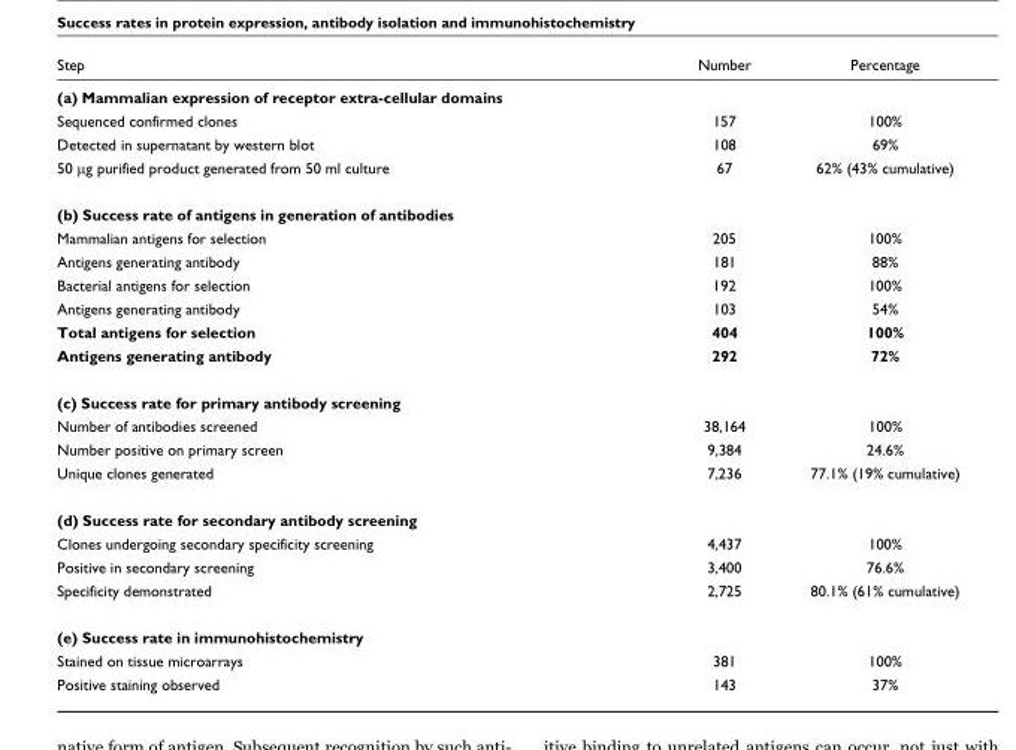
<table><thead><tr><td>Step</td><td>Number</td><td>Percentage</td></tr></thead><tbody><tr><td colspan="3">(a) Mammalian expression of receptor extra-cellular domains</td></tr><tr><td>Sequenced confirmed clones</td><td>157</td><td>100%</td></tr><tr><td>Detected in supernatant by western blot</td><td>108</td><td>69%</td></tr><tr><td>50 μg purified product generated from 50 ml culture</td><td>67</td><td>62% (43% cumulative)</td></tr><tr><td colspan="3">(b) Success rate of antigens in generation of antibodies</td></tr><tr><td>Mammalian antigens for selection</td><td>205</td><td>100%</td></tr><tr><td>Antigens generating antibody</td><td>181</td><td>88%</td></tr><tr><td>Bacterial antigens for selection</td><td>192</td><td>100%</td></tr><tr><td>Antigens generating antibody</td><td>103</td><td>54%</td></tr><tr><td>Total antigens for selection</td><td>404</td><td>100%</td></tr><tr><td>Antigens generating antibody</td><td>292</td><td>72%</td></tr><tr><td colspan="3">(c) Success rate for primary antibody screening</td></tr><tr><td>Number of antibodies screened</td><td>38,164</td><td>100%</td></tr><tr><td>Number positive on primary screen</td><td>9,384</td><td>24.6%</td></tr><tr><td>Unique clones generated</td><td>7,236</td><td>77.1% (19% cumulative)</td></tr><tr><td colspan="3">(d) Success rate for secondary antibody screening</td></tr><tr><td>Clones undergoing secondary specificity screening</td><td>4,437</td><td>100%</td></tr><tr><td>Positive in secondary screening</td><td>3,400</td><td>76.6%</td></tr><tr><td>Specificity demonstrated</td><td>2,725</td><td>80.1% (61% cumulative)</td></tr><tr><td colspan="3">(e) Success rate in immunohistochemistry</td></tr><tr><td>Stained on tissue microarrays</td><td>381</td><td>100%</td></tr><tr><td>Positive staining observed</td><td>143</td><td>37%</td></tr></tbody></table>